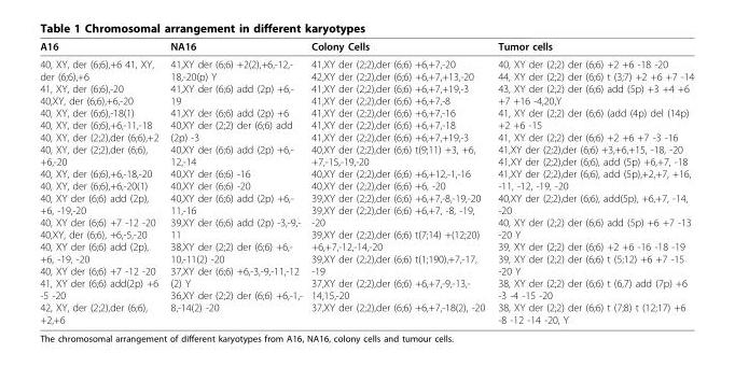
<table><thead><tr><td>A16</td><td>NA16</td><td>Colony Cells</td><td>Tumor cells</td></tr></thead><tbody><tr><td>40, XY, der (6;6),+6 41, XY, der (6;6),+6 41, XY, der (6;6),-20 40,XY, der (6;6),+6,-20 40, XY, der (6;6),-18(1) 40, XY, der (6;6),+6,-11,-18 40, XY, der (2;2),der (6;6),+2 40, XY, der (2;2),der (6;6), +6,-20 40, XY, der (6;6),+6,-18,-20 40, XY, der (6;6),+6,-20(1) 40, XY der (6;6) add (2p), +6, -19,-20 40, XY der (6;6) +7 -12 -20 40,XY, der (6;6), +6,-5,-20 40, XY der (6;6) add (2p), +6, -19, -20 40, XY der (6;6) +7 -12 -20 41, XY der (6;6) add(2p) +6 -5 -20 42, XY, der (2;2),der (6;6), +2,+6</td><td>41,XY der (6;6) +2(2),+6,-12,- 18,-20(p) Y 41,XY der (6;6) add (2p) +6,- 19 41,XY der (6;6) add (2p) +6 40,XY der (2;2) der (6;6) add (2p) -3 40,XY der (6;6) add (2p) +6,- 12,-14 40,XY der (6;6) -16 40,XY der (6;6) -20 40,XY der (6;6) add (2p) +6,- 11,-16 39,XY der (6;6) add (2p) -3,-9,- 11 38,XY der (2;2) der (6;6) +6,- 10,-11(2) -20 37,XY der (6;6) +6,-3,-9,-11,-12 (2) Y 36,XY der (2;2) der (6;6) +6,-1,- 8,-14(2) -20</td><td>41,XY der (2;2),der (6;6) +6,+7,-20 42,XY der (2;2),der (6;6) +6,+7,+13,-20 41,XY der (2;2),der (6;6) +6,+7,+19,-3 41,XY der (2;2),der (6;6) +6,+7,-8 41,XY der (2;2),der (6;6) +6,+7,-16 41,XY der (2;2),der (6;6) +6,+7,-18 41,XY der (2;2),der (6;6) +6,+7,+19,-3 40,XY der (2;2),der (6;6) t(9;11) +3, +6, +7,-15,-19,-20 40,XY der (2;2),der (6;6) +6,+12,-1,-16 40,XY der (2;2),der (6;6) +6, -20 39,XY der (2;2),der (6;6) +6,+7,-8,-19,-20 39,XY der (2;2),der (6;6) +6,+7, -8, -19, -20 39,XY der (2;2),der (6;6) t(7;14) +(12;20) +6,+7,-12,-14,-20 39,XY der (2;2),der (6;6) t(1;190),+7,-17, -19 37,XY der (2;2),der (6;6) +6,+7,-9,-13,- 14,15,-20 37,XY der (2;2),der (6;6) +6,+7,-18(2), -20</td><td>40, XY der (2;2) der (6;6) +2 +6 -18 -20 44, XY der (2;2) der (6;6) t (3;7) +2 +6 +7 -14 43, XY der (2;2) der (6;6) add (5p) +3 +4 +6 +7 +16 -4,20,Y 41, XY der (2;2) der (6;6) (add (4p) del (14p) +2 +6 -15 41, XY der (2;2) der (6;6) +2 +6 +7 -3 -16 41,XY der (2;2),der (6;6) +3,+6,+15, -18, -20 41,XY der (2;2),der (6;6), add (5p) +6,+7, -18 41,XY der (2;2),der (6;6), add (5p),+2,+7, +16, -11, -12, -19, -20 40,XY der (2;2),der (6;6), add(5p), +6,+7, -14, -20 40, XY der (2;2) der (6;6) add (5p) +6 +7 -13 -20 Y 39, XY der (2;2) der (6;6) +2 +6 -16 -18 -19 39, XY der (2;2) der (6;6) t (5;12) +6 +7 -15 -20 Y 38, XY der (2;2) der (6;6) t (6,7) add (7p) +6 -3 -4 -15 -20 38, XY der (2;2) der (6;6) t (7;8) t (12;17) +6 -8 -12 -14 -20, Y</td></tr></tbody></table>